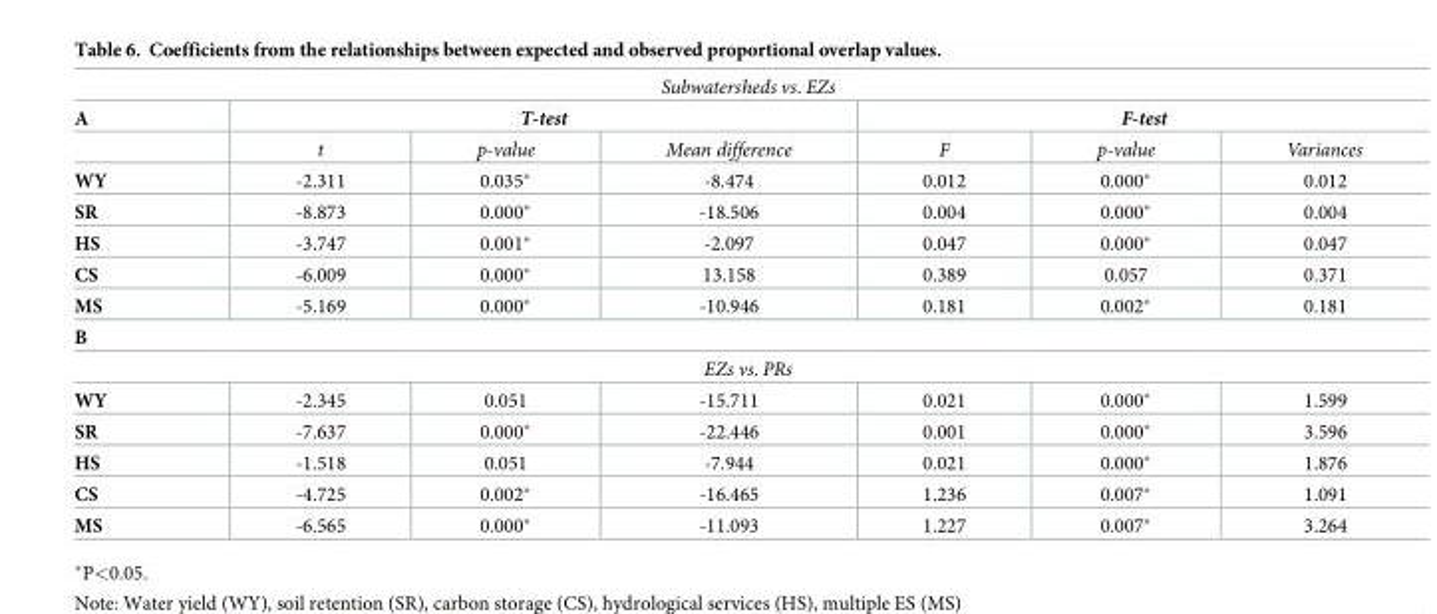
<table><tbody><tr><td colspan="7">Subwatersheds vs. EZs</td></tr><tr><td rowspan="2">A</td><td colspan="3">T-test</td><td colspan="3">F-test</td></tr><tr><td>t</td><td>p-value</td><td>Mean difference</td><td>F</td><td>p-value</td><td>Variances</td></tr><tr><td>WY</td><td>-2.311</td><td>0.035*</td><td>-8.474</td><td>0.012</td><td>0.000*</td><td>0.012</td></tr><tr><td>SR</td><td>-8.873</td><td>0.000*</td><td>-18.506</td><td>0.004</td><td>0.000*</td><td>0.004</td></tr><tr><td>HS</td><td>-3.747</td><td>0.001*</td><td>-2.097</td><td>0.047</td><td>0.000*</td><td>0.047</td></tr><tr><td>CS</td><td>-6.009</td><td>0.000*</td><td>13.158</td><td>0.389</td><td>0.057</td><td>0.371</td></tr><tr><td>MS</td><td>-5.169</td><td>0.000*</td><td>-10.946</td><td>0.181</td><td>0.002*</td><td>0.181</td></tr><tr><td colspan="7">B</td></tr><tr><td colspan="7">EZs vs. PRs</td></tr><tr><td>WY</td><td>-2.345</td><td>0.051</td><td>-15.711</td><td>0.021</td><td>0.000*</td><td>1.599</td></tr><tr><td>SR</td><td>-7.637</td><td>0.000*</td><td>-22.446</td><td>0.001</td><td>0.000*</td><td>3.596</td></tr><tr><td>HS</td><td>-1.518</td><td>0.051</td><td>-7.944</td><td>0.021</td><td>0.000*</td><td>1.876</td></tr><tr><td>CS</td><td>-4.725</td><td>0.002*</td><td>-16.465</td><td>1.236</td><td>0.007*</td><td>1.091</td></tr><tr><td>MS</td><td>-6.565</td><td>0.000*</td><td>-11.093</td><td>1.227</td><td>0.007*</td><td>3.264</td></tr></tbody></table>